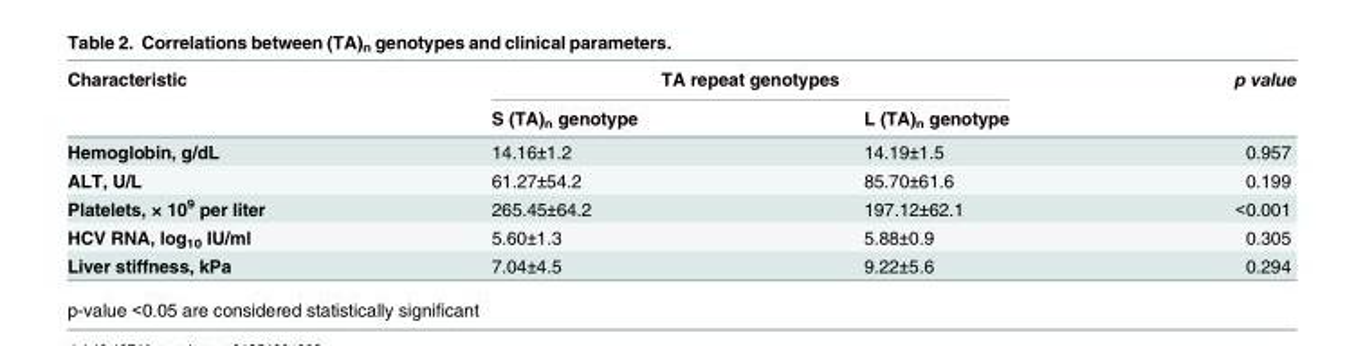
<table><thead><tr><td rowspan="2">Characteristic</td><td colspan="2">TA repeat genotypes</td><td rowspan="2">p value</td></tr><tr><td>S (TA)<sub>n</sub> genotype</td><td>L (TA)<sub>n</sub> genotype</td></tr></thead><tbody><tr><td>Hemoglobin, g/dL</td><td>14.16±1.2</td><td>14.19±1.5</td><td>0.957</td></tr><tr><td>ALT, U/L</td><td>61.27±54.2</td><td>85.70±61.6</td><td>0.199</td></tr><tr><td>Platelets, × 10<sup>9</sup> per liter</td><td>265.45±64.2</td><td>197.12±62.1</td><td>&lt;0.001</td></tr><tr><td>HCV RNA, log<sub>10</sub> IU/ml</td><td>5.60±1.3</td><td>5.88±0.9</td><td>0.305</td></tr><tr><td>Liver stiffness, kPa</td><td>7.04±4.5</td><td>9.22±5.6</td><td>0.294</td></tr></tbody></table>